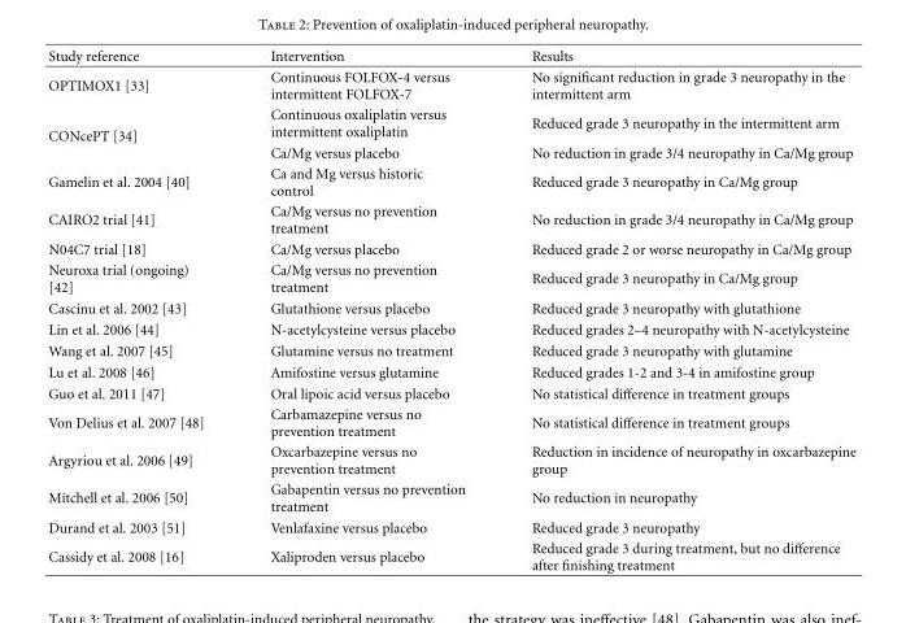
<table><thead><tr><td>Study reference</td><td>Intervention</td><td>Results</td></tr></thead><tbody><tr><td>OPTIMOX1 [33]</td><td>Continuous FOLFOX-4 versus intermittent FOLFOX-7</td><td>No significant reduction in grade 3 neuropathy in the intermittent arm</td></tr><tr><td rowspan="2">CONcePT [34]</td><td>Continuous oxaliplatin versus intermittent oxaliplatin</td><td>Reduced grade 3 neuropathy in the intermittent arm</td></tr><tr><td>Ca/Mg versus placebo</td><td>No reduction in grade 3/4 neuropathy in Ca/Mg group</td></tr><tr><td>Gamelin et al. 2004 [40]</td><td>Ca and Mg versus historic control</td><td>Reduced grade 3 neuropathy in Ca/Mg group</td></tr><tr><td>CAIRO2 trial [41]</td><td>Ca/Mg versus no prevention treatment</td><td>No reduction in grade 3/4 neuropathy in Ca/Mg group</td></tr><tr><td>N04C7 trial [18]</td><td>Ca/Mg versus placebo</td><td>Reduced grade 2 or worse neuropathy in Ca/Mg group</td></tr><tr><td>Neuroxa trial (ongoing) [42]</td><td>Ca/Mg versus no prevention treatment</td><td>Reduced grade 3 neuropathy in Ca/Mg group</td></tr><tr><td>Cascinu et al. 2002 [43]</td><td>Glutathione versus placebo</td><td>Reduced grade 3 neuropathy with glutathione</td></tr><tr><td>Lin et al. 2006 [44]</td><td>N-acetylcysteine versus placebo</td><td>Reduced grades 2–4 neuropathy with N-acetylcysteine</td></tr><tr><td>Wang et al. 2007 [45]</td><td>Glutamine versus no treatment</td><td>Reduced grade 3 neuropathy with glutamine</td></tr><tr><td>Lu et al. 2008 [46]</td><td>Amifostine versus glutamine</td><td>Reduced grades 1-2 and 3-4 in amifostine group</td></tr><tr><td>Guo et al. 2011 [47]</td><td>Oral lipoic acid versus placebo</td><td>No statistical difference in treatment groups</td></tr><tr><td>Von Delius et al. 2007 [48]</td><td>Carbamazepine versus no prevention treatment</td><td>No statistical difference in treatment groups</td></tr><tr><td>Argyriou et al. 2006 [49]</td><td>Oxcarbazepine versus no prevention treatment</td><td>Reduction in incidence of neuropathy in oxcarbazepine group</td></tr><tr><td>Mitchell et al. 2006 [50]</td><td>Gabapentin versus no prevention treatment</td><td>No reduction in neuropathy</td></tr><tr><td>Durand et al. 2003 [51]</td><td>Venlafaxine versus placebo</td><td>Reduced grade 3 neuropathy</td></tr><tr><td>Cassidy et al. 2008 [16]</td><td>Xaliproden versus placebo</td><td>Reduced grade 3 during treatment, but no difference after finishing treatment</td></tr></tbody></table>